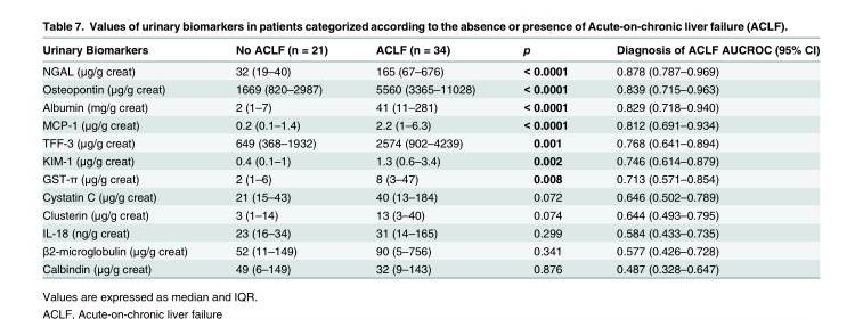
<table><thead><tr><td>Urinary Biomarkers</td><td>No ACLF (n = 21)</td><td>ACLF (n = 34)</td><td>p</td><td>Diagnosis of ACLF AUCROC (95% CI)</td></tr></thead><tbody><tr><td>NGAL (μg/g creat)</td><td>32 (19–40)</td><td>165 (67–676)</td><td>&lt; 0.0001</td><td>0.878 (0.787–0.969)</td></tr><tr><td>Osteopontin (μg/g creat)</td><td>1669 (820–2987)</td><td>5560 (3365–11028)</td><td>&lt; 0.0001</td><td>0.839 (0.715–0.963)</td></tr><tr><td>Albumin (mg/g creat)</td><td>2 (1–7)</td><td>41 (11–281)</td><td>&lt; 0.0001</td><td>0.829 (0.718–0.940)</td></tr><tr><td>MCP-1 (μg/g creat)</td><td>0.2 (0.1–1.4)</td><td>2.2 (1–6.3)</td><td>&lt; 0.0001</td><td>0.812 (0.691–0.934)</td></tr><tr><td>TFF-3 (μg/g creat)</td><td>649 (368–1932)</td><td>2574 (902–4239)</td><td>0.001</td><td>0.768 (0.641–0.894)</td></tr><tr><td>KIM-1 (μg/g creat)</td><td>0.4 (0.1–1)</td><td>1.3 (0.6–3.4)</td><td>0.002</td><td>0.746 (0.614–0.879)</td></tr><tr><td>GST-π (μg/g creat)</td><td>2 (1–6)</td><td>8 (3–47)</td><td>0.008</td><td>0.713 (0.571–0.854)</td></tr><tr><td>Cystatin C (μg/g creat)</td><td>21 (15–43)</td><td>40 (13–184)</td><td>0.072</td><td>0.646 (0.502–0.789)</td></tr><tr><td>Clusterin (μg/g creat)</td><td>3 (1–14)</td><td>13 (3–40)</td><td>0.074</td><td>0.644 (0.493–0.795)</td></tr><tr><td>IL-18 (ng/g creat)</td><td>23 (16–34)</td><td>31 (14–165)</td><td>0.299</td><td>0.584 (0.433–0.735)</td></tr><tr><td>β2-microglobulin (μg/g creat)</td><td>52 (11–149)</td><td>90 (5–756)</td><td>0.341</td><td>0.577 (0.426–0.728)</td></tr><tr><td>Calbindin (μg/g creat)</td><td>49 (6–149)</td><td>32 (9–143)</td><td>0.876</td><td>0.487 (0.328–0.647)</td></tr></tbody></table>